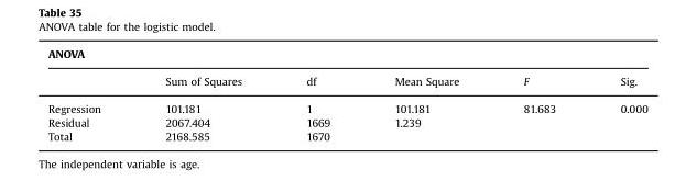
<table><thead><tr><td colspan="6">ANOVA</td></tr><tr><td></td><td>Sum of Squares</td><td>df</td><td>Mean Square</td><td>F</td><td>Sig.</td></tr></thead><tbody><tr><td>Regression</td><td>101.181</td><td>1</td><td>101.181</td><td>81.683</td><td>0.000</td></tr><tr><td>Residual</td><td>2067.404</td><td>1669</td><td>1.239</td><td></td><td></td></tr><tr><td>Total</td><td>2168.585</td><td>1670</td><td></td><td></td><td></td></tr></tbody></table>